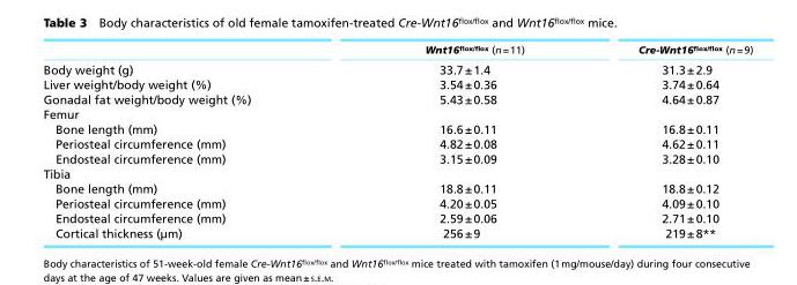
<table><thead><tr><td></td><td>Wnt16<sup>flox/flox</sup> (n = 11)</td><td>Cre-Wnt16<sup>flox/flox</sup> (n = 9)</td></tr></thead><tbody><tr><td>Body weight (g)</td><td>33.7 ± 1.4</td><td>31.3 ± 2.9</td></tr><tr><td>Liver weight/body weight (%)</td><td>3.54 ± 0.36</td><td>3.74 ± 0.64</td></tr><tr><td>Gonadal fat weight/body weight (%)</td><td>5.43 ± 0.58</td><td>4.64 ± 0.87</td></tr><tr><td colspan="3">Femur</td></tr><tr><td>Bone length (mm)</td><td>16.6 ± 0.11</td><td>16.8 ± 0.11</td></tr><tr><td>Periosteal circumference (mm)</td><td>4.82 ± 0.08</td><td>4.62 ± 0.11</td></tr><tr><td>Endosteal circumference (mm)</td><td>3.15 ± 0.09</td><td>3.28 ± 0.10</td></tr><tr><td colspan="3">Tibia</td></tr><tr><td>Bone length (mm)</td><td>18.8 ± 0.11</td><td>18.8 ± 0.12</td></tr><tr><td>Periosteal circumference (mm)</td><td>4.20 ± 0.05</td><td>4.09 ± 0.10</td></tr><tr><td>Endosteal circumference (mm)</td><td>2.59 ± 0.06</td><td>2.71 ± 0.10</td></tr><tr><td>Cortical thickness (µm)</td><td>256 ± 9</td><td>219 ± 8**</td></tr></tbody></table>